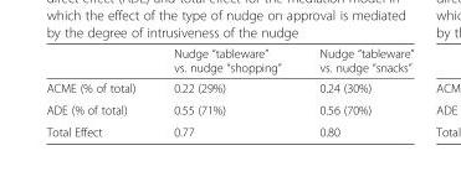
<table><thead><tr><td></td><td>Nudge “tableware” vs. nudge “shopping”</td><td>Nudge “tableware” vs. nudge “snacks”</td></tr></thead><tbody><tr><td>ACME (% of total)</td><td>0.22 (29%)</td><td>0.24 (30%)</td></tr><tr><td>ADE (% of total)</td><td>0.55 (71%)</td><td>0.56 (70%)</td></tr><tr><td>Total Effect</td><td>0.77</td><td>0.80</td></tr></tbody></table>